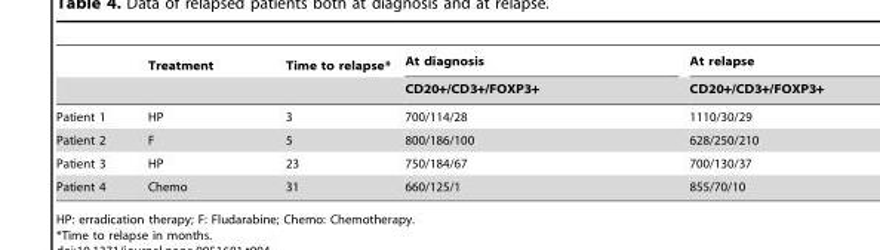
<table><thead><tr><td rowspan="2"></td><td rowspan="2">Treatment</td><td rowspan="2">Time to relapse*</td><td rowspan="2">At diagnosis CD20+/CD3+/FOXP3+</td><td rowspan="2">At relapse CD20+/CD3+/FOXP3+</td></tr><tr></tr></thead><tbody><tr><td>Patient 1</td><td>HP</td><td>3</td><td>700/114/28</td><td>1110/30/29</td></tr><tr><td>Patient 2</td><td>F</td><td>5</td><td>800/186/100</td><td>628/250/210</td></tr><tr><td>Patient 3</td><td>HP</td><td>23</td><td>750/184/67</td><td>700/130/37</td></tr><tr><td>Patient 4</td><td>Chemo</td><td>31</td><td>660/125/1</td><td>855/70/10</td></tr></tbody></table>